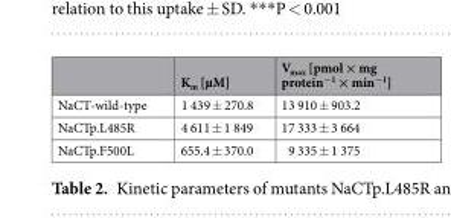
<table><thead><tr><td></td><td>K<sub>m</sub> [µM]</td><td>V<sub>max</sub> [pmol × mg protein<sup>−1</sup> × min<sup>−1</sup>]</td></tr></thead><tbody><tr><td>NaCT-wild-type</td><td>1 439 ± 270.8</td><td>13 910 ± 903.2</td></tr><tr><td>NaCTp.L485R</td><td>4 611 ± 1 849</td><td>17 333 ± 3 664</td></tr><tr><td>NaCTp.F500L</td><td>655.4 ± 370.0</td><td>9 335 ± 1 375</td></tr></tbody></table>